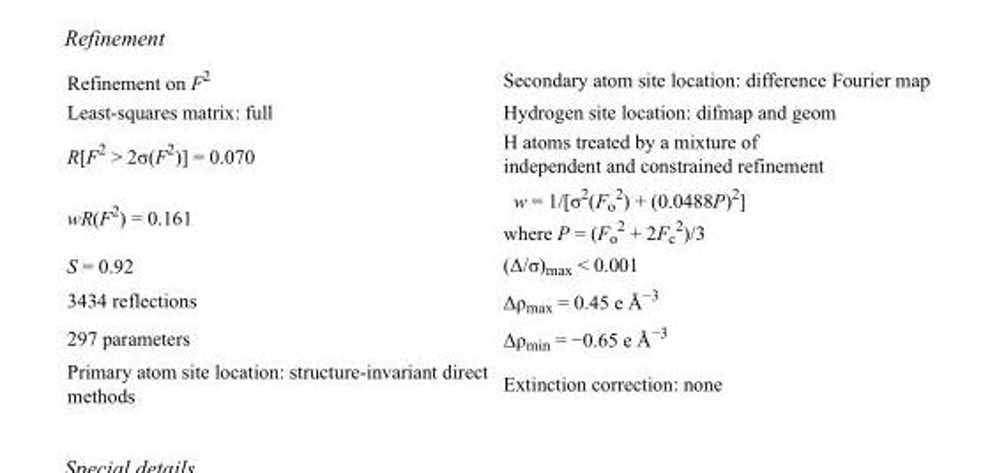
<table><tbody><tr><td>Refinement on F<sup>2</sup></td><td>Secondary atom site location: difference Fourier map</td></tr><tr><td>Least-squares matrix: full</td><td>Hydrogen site location: difmap and geom</td></tr><tr><td>R[F<sup>2</sup> &gt; 2σ(F<sup>2</sup>)] = 0.070</td><td>H atoms treated by a mixture of independent and constrained refinement</td></tr><tr><td>wR(F<sup>2</sup>) = 0.161</td><td>w = 1/[σ<sup>2</sup>(F<sub>o</sub> <sup>2</sup>) + (0.0488P)<sup>2</sup>] where P = (F<sub>o</sub> <sup>2</sup> + 2F<sub>c</sub> <sup>2</sup>)/3</td></tr><tr><td>S = 0.92</td><td>(Δ/σ)<sub>max</sub> &lt; 0.001</td></tr><tr><td>3434 reflections</td><td>Δρ<sub>max</sub> = 0.45 e Å<sup>−3</sup></td></tr><tr><td>297 parameters</td><td>Δρ<sub>min</sub> = −0.65 e Å<sup>−3</sup></td></tr><tr><td>Primary atom site location: structure-invariant direct methods</td><td>Extinction correction: none</td></tr></tbody></table>